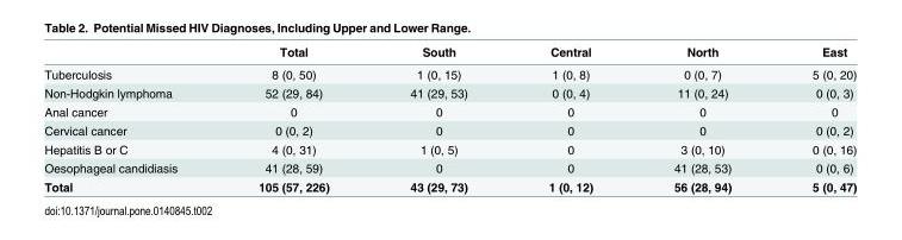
<table><thead><tr><td></td><td>Total</td><td>South</td><td>Central</td><td>North</td><td>East</td></tr></thead><tbody><tr><td>Tuberculosis</td><td>8 (0, 50)</td><td>1 (0, 15)</td><td>1 (0, 8)</td><td>0 (0, 7)</td><td>5 (0, 20)</td></tr><tr><td>Non-Hodgkin lymphoma</td><td>52 (29, 84)</td><td>41 (29, 53)</td><td>0 (0, 4)</td><td>11 (0, 24)</td><td>0 (0, 3)</td></tr><tr><td>Anal cancer</td><td>0</td><td>0</td><td>0</td><td>0</td><td>0</td></tr><tr><td>Cervical cancer</td><td>0 (0, 2)</td><td>0</td><td>0</td><td>0</td><td>0 (0, 2)</td></tr><tr><td>Hepatitis B or C</td><td>4 (0, 31)</td><td>1 (0, 5)</td><td>0</td><td>3 (0, 10)</td><td>0 (0, 16)</td></tr><tr><td>Oesophageal candidiasis</td><td>41 (28, 59)</td><td>0</td><td>0</td><td>41 (28, 53)</td><td>0 (0, 6)</td></tr><tr><td>Total</td><td>105 (57, 226)</td><td>43 (29, 73)</td><td>1 (0, 12)</td><td>56 (28, 94)</td><td>5 (0, 47)</td></tr></tbody></table>